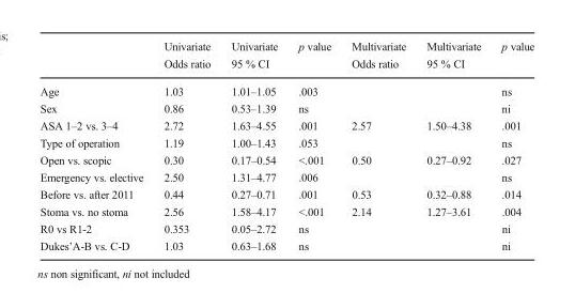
<table><thead><tr><td></td><td>Univariate Odds ratio</td><td>Univariate 95 % CI</td><td>p value</td><td>Multivariate Odds ratio</td><td>Multivariate 95 % CI</td><td>p value</td></tr></thead><tbody><tr><td>Age</td><td>1.03</td><td>1.01–1.05</td><td>.003</td><td></td><td></td><td>ns</td></tr><tr><td>Sex</td><td>0.86</td><td>0.53–1.39</td><td>ns</td><td></td><td></td><td>ni</td></tr><tr><td>ASA 1–2 vs. 3–4</td><td>2.72</td><td>1.63–4.55</td><td>.001</td><td>2.57</td><td>1.50–4.38</td><td>.001</td></tr><tr><td>Type of operation</td><td>1.19</td><td>1.00–1.43</td><td>.053</td><td></td><td></td><td>ns</td></tr><tr><td>Open vs. scopic</td><td>0.30</td><td>0.17–0.54</td><td>&lt;.001</td><td>0.50</td><td>0.27–0.92</td><td>.027</td></tr><tr><td>Emergency vs. elective</td><td>2.50</td><td>1.31–4.77</td><td>.006</td><td></td><td></td><td>ns</td></tr><tr><td>Before vs. after 2011</td><td>0.44</td><td>0.27–0.71</td><td>.001</td><td>0.53</td><td>0.32–0.88</td><td>.014</td></tr><tr><td>Stoma vs. no stoma</td><td>2.56</td><td>1.58–4.17</td><td>&lt;.001</td><td>2.14</td><td>1.27–3.61</td><td>.004</td></tr><tr><td>R0 vs R1-2</td><td>0.353</td><td>0.05–2.72</td><td>ns</td><td></td><td></td><td>ni</td></tr><tr><td>Dukes’A-B vs. C-D</td><td>1.03</td><td>0.63–1.68</td><td>ns</td><td></td><td></td><td>ni</td></tr></tbody></table>